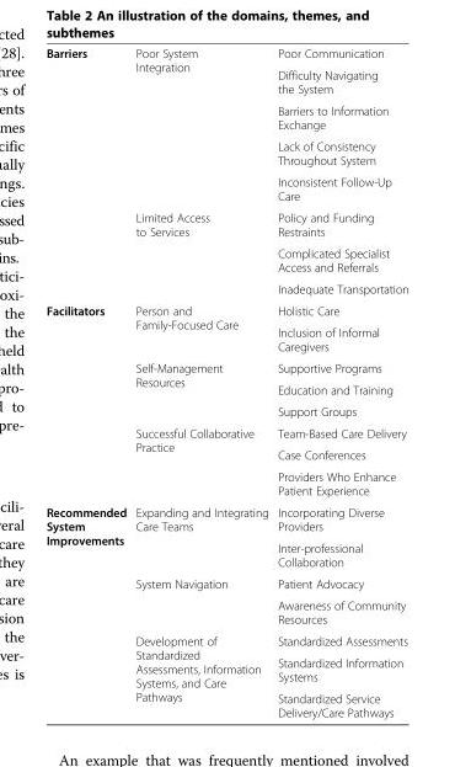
<table><tbody><tr><td rowspan="8">Barriers</td><td rowspan="5">Poor System Integration</td><td>Poor Communication</td></tr><tr><td>Difficulty Navigating the System</td></tr><tr><td>Barriers to Information Exchange</td></tr><tr><td>Lack of Consistency Throughout System</td></tr><tr><td>Inconsistent Follow-Up Care</td></tr><tr><td rowspan="3">Limited Access to Services</td><td>Policy and Funding Restraints</td></tr><tr><td>Complicated Specialist Access and Referrals</td></tr><tr><td>Inadequate Transportation</td></tr><tr><td rowspan="8">Facilitators</td><td rowspan="2">Person and Family-Focused Care</td><td>Holistic Care</td></tr><tr><td>Inclusion of Informal Caregivers</td></tr><tr><td rowspan="3">Self-Management Resources</td><td>Supportive Programs</td></tr><tr><td>Education and Training</td></tr><tr><td>Support Groups</td></tr><tr><td rowspan="3">Successful Collaborative Practice</td><td>Team-Based Care Delivery</td></tr><tr><td>Case Conferences</td></tr><tr><td>Providers Who Enhance Patient Experience</td></tr><tr><td rowspan="7">Recommended System Improvements</td><td rowspan="2">Expanding and Integrating Care Teams</td><td>Incorporating Diverse Providers</td></tr><tr><td>Inter-professional Collaboration</td></tr><tr><td rowspan="2">System Navigation</td><td>Patient Advocacy</td></tr><tr><td>Awareness of Community Resources</td></tr><tr><td rowspan="3">Development of Standardized Assessments, Information Systems, and Care Pathways</td><td>Standardized Assessments</td></tr><tr><td>Standardized Information Systems</td></tr><tr><td>Standardized Service Delivery/Care Pathways</td></tr></tbody></table>